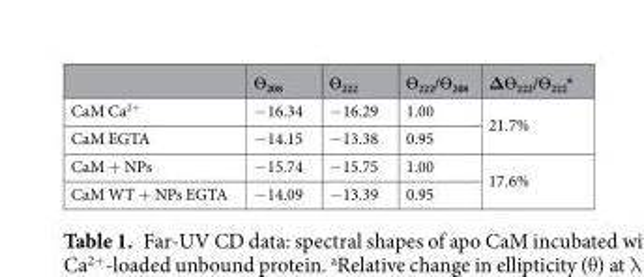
<table><thead><tr><td></td><td>ϴ<sub>208</sub></td><td>ϴ<sub>222</sub></td><td>ϴ<sub>222</sub>/ϴ<sub>208</sub></td><td>Δϴ<sub>222</sub>/ϴ<sub>222</sub> <sup>a</sup></td></tr></thead><tbody><tr><td>CaM Ca<sup>2+</sup></td><td>−16.34</td><td>−16.29</td><td>1.00</td><td rowspan="2">21.7%</td></tr><tr><td>CaM EGTA</td><td>−14.15</td><td>−13.38</td><td>0.95</td></tr><tr><td>CaM + NPs</td><td>−15.74</td><td>−15.75</td><td>1.00</td><td rowspan="2">17.6%</td></tr><tr><td>CaM WT + NPs EGTA</td><td>−14.09</td><td>−13.39</td><td>0.95</td></tr></tbody></table>